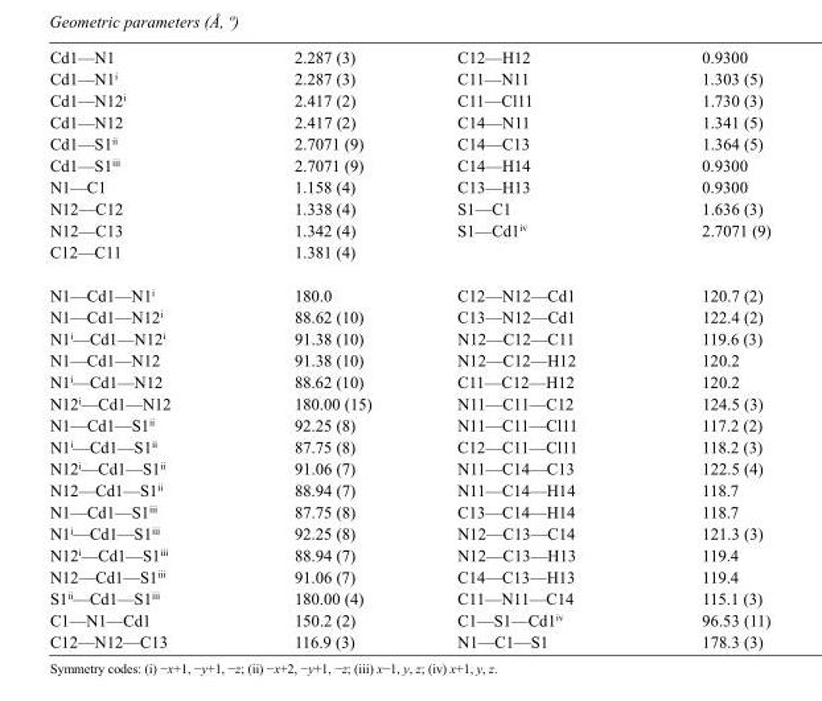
<table><tbody><tr><td>Cd1—N1</td><td>2.287 (3)</td><td>C12—H12</td><td>0.9300</td></tr><tr><td>Cd1—N1<sup>i</sup></td><td>2.287 (3)</td><td>C11—N11</td><td>1.303 (5)</td></tr><tr><td>Cd1—N12<sup>i</sup></td><td>2.417 (2)</td><td>C11—Cl11</td><td>1.730 (3)</td></tr><tr><td>Cd1—N12</td><td>2.417 (2)</td><td>C14—N11</td><td>1.341 (5)</td></tr><tr><td>Cd1—S1<sup>ii</sup></td><td>2.7071 (9)</td><td>C14—C13</td><td>1.364 (5)</td></tr><tr><td>Cd1—S1<sup>iii</sup></td><td>2.7071 (9)</td><td>C14—H14</td><td>0.9300</td></tr><tr><td>N1—C1</td><td>1.158 (4)</td><td>C13—H13</td><td>0.9300</td></tr><tr><td>N12—C12</td><td>1.338 (4)</td><td>S1—C1</td><td>1.636 (3)</td></tr><tr><td>N12—C13</td><td>1.342 (4)</td><td>S1—Cd1<sup>iv</sup></td><td>2.7071 (9)</td></tr><tr><td>C12—C11</td><td>1.381 (4)</td><td></td><td></td></tr><tr><td>N1—Cd1—N1<sup>i</sup></td><td>180.0</td><td>C12—N12—Cd1</td><td>120.7 (2)</td></tr><tr><td>N1—Cd1—N12<sup>i</sup></td><td>88.62 (10)</td><td>C13—N12—Cd1</td><td>122.4 (2)</td></tr><tr><td>N1<sup>i</sup>—Cd1—N12<sup>i</sup></td><td>91.38 (10)</td><td>N12—C12—C11</td><td>119.6 (3)</td></tr><tr><td>N1—Cd1—N12</td><td>91.38 (10)</td><td>N12—C12—H12</td><td>120.2</td></tr><tr><td>N1<sup>i</sup>—Cd1—N12</td><td>88.62 (10)</td><td>C11—C12—H12</td><td>120.2</td></tr><tr><td>N12<sup>i</sup>—Cd1—N12</td><td>180.00 (15)</td><td>N11—C11—C12</td><td>124.5 (3)</td></tr><tr><td>N1—Cd1—S1<sup>ii</sup></td><td>92.25 (8)</td><td>N11—C11—Cl11</td><td>117.2 (2)</td></tr><tr><td>N1<sup>i</sup>—Cd1—S1<sup>ii</sup></td><td>87.75 (8)</td><td>C12—C11—Cl11</td><td>118.2 (3)</td></tr><tr><td>N12<sup>i</sup>—Cd1—S1<sup>ii</sup></td><td>91.06 (7)</td><td>N11—C14—C13</td><td>122.5 (4)</td></tr><tr><td>N12—Cd1—S1<sup>ii</sup></td><td>88.94 (7)</td><td>N11—C14—H14</td><td>118.7</td></tr><tr><td>N1—Cd1—S1<sup>iii</sup></td><td>87.75 (8)</td><td>C13—C14—H14</td><td>118.7</td></tr><tr><td>N1<sup>i</sup>—Cd1—S1<sup>iii</sup></td><td>92.25 (8)</td><td>N12—C13—C14</td><td>121.3 (3)</td></tr><tr><td>N12<sup>i</sup>—Cd1—S1<sup>iii</sup></td><td>88.94 (7)</td><td>N12—C13—H13</td><td>119.4</td></tr><tr><td>N12—Cd1—S1<sup>iii</sup></td><td>91.06 (7)</td><td>C14—C13—H13</td><td>119.4</td></tr><tr><td>S1<sup>ii</sup>—Cd1—S1<sup>iii</sup></td><td>180.00 (4)</td><td>C11—N11—C14</td><td>115.1 (3)</td></tr><tr><td>C1—N1—Cd1</td><td>150.2 (2)</td><td>C1—S1—Cd1<sup>iv</sup></td><td>96.53 (11)</td></tr><tr><td>C12—N12—C13</td><td>116.9 (3)</td><td>N1—C1—S1</td><td>178.3 (3)</td></tr></tbody></table>